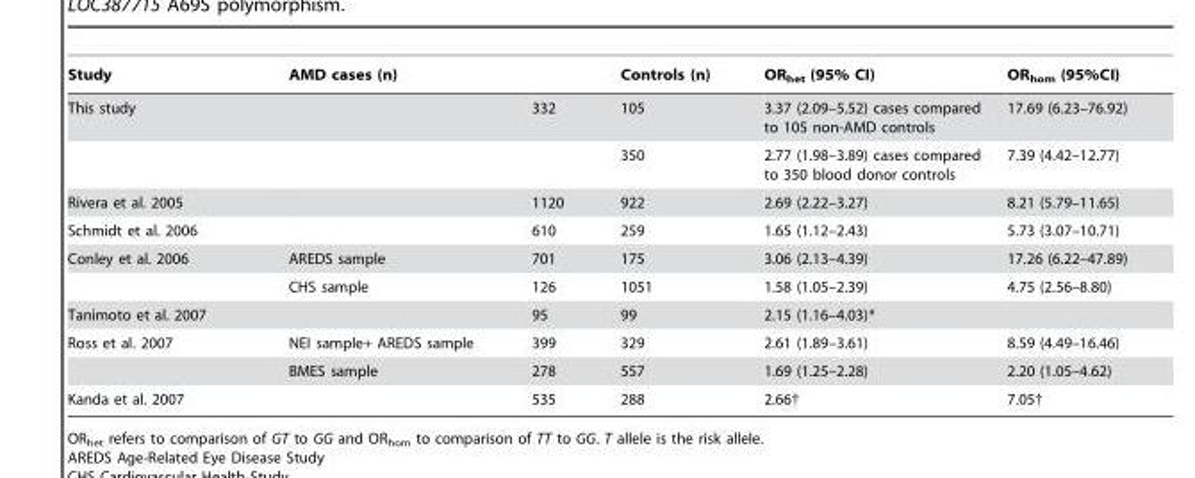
<table><thead><tr><td>Study</td><td>AMD cases (n)</td><td></td><td>Controls (n)</td><td>OR<sub>het</sub> (95% CI)</td><td>OR<sub>hom</sub> (95%CI)</td></tr></thead><tbody><tr><td rowspan="2">This study</td><td></td><td>332</td><td>105</td><td>3.37 (2.09–5.52) cases compared to 105 non-AMD controls</td><td>17.69 (6.23–76.92)</td></tr><tr><td></td><td></td><td>350</td><td>2.77 (1.98–3.89) cases compared to 350 blood donor controls</td><td>7.39 (4.42–12.77)</td></tr><tr><td>Rivera et al. 2005</td><td></td><td>1120</td><td>922</td><td>2.69 (2.22–3.27)</td><td>8.21 (5.79–11.65)</td></tr><tr><td>Schmidt et al. 2006</td><td></td><td>610</td><td>259</td><td>1.65 (1.12–2.43)</td><td>5.73 (3.07–10.71)</td></tr><tr><td rowspan="2">Conley et al. 2006</td><td>AREDS sample</td><td>701</td><td>175</td><td>3.06 (2.13–4.39)</td><td>17.26 (6.22–47.89)</td></tr><tr><td>CHS sample</td><td>126</td><td>1051</td><td>1.58 (1.05–2.39)</td><td>4.75 (2.56–8.80)</td></tr><tr><td>Tanimoto et al. 2007</td><td></td><td>95</td><td>99</td><td>2.15 (1.16–4.03)*</td><td></td></tr><tr><td rowspan="2">Ross et al. 2007</td><td>NEI sample+ AREDS sample</td><td>399</td><td>329</td><td>2.61 (1.89–3.61)</td><td>8.59 (4.49–16.46)</td></tr><tr><td>BMES sample</td><td>278</td><td>557</td><td>1.69 (1.25–2.28)</td><td>2.20 (1.05–4.62)</td></tr><tr><td>Kanda et al. 2007</td><td></td><td>535</td><td>288</td><td>2.66†</td><td>7.05†</td></tr></tbody></table>